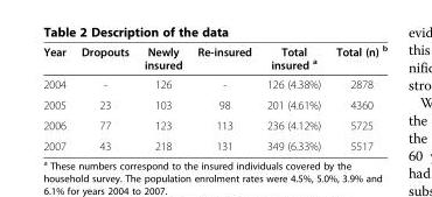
<table><thead><tr><td>Year</td><td>Dropouts</td><td>Newly insured</td><td>Re-insured</td><td>Total insured <sup>a</sup></td><td>Total (n) <sup>b</sup></td></tr></thead><tbody><tr><td>2004</td><td>-</td><td>126</td><td>-</td><td>126 (4.38%)</td><td>2878</td></tr><tr><td>2005</td><td>23</td><td>103</td><td>98</td><td>201 (4.61%)</td><td>4360</td></tr><tr><td>2006</td><td>77</td><td>123</td><td>113</td><td>236 (4.12%)</td><td>5725</td></tr><tr><td>2007</td><td>43</td><td>218</td><td>131</td><td>349 (6.33%)</td><td>5517</td></tr></tbody></table>